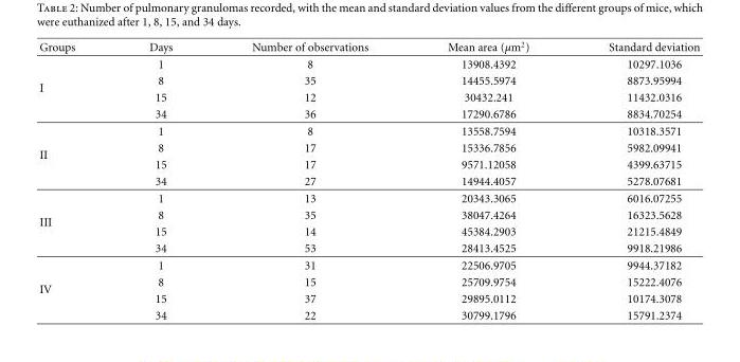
<table><thead><tr><td>Groups</td><td>Days</td><td>Number of observations</td><td>Mean area (μm<sup>2</sup>)</td><td>Standard deviation</td></tr></thead><tbody><tr><td rowspan="4">I</td><td>1</td><td>8</td><td>13908.4392</td><td>10297.1036</td></tr><tr><td>8</td><td>35</td><td>14455.5974</td><td>8873.95994</td></tr><tr><td>15</td><td>12</td><td>30432.241</td><td>11432.0316</td></tr><tr><td>34</td><td>36</td><td>17290.6786</td><td>8834.70254</td></tr><tr><td rowspan="4">II</td><td>1</td><td>8</td><td>13558.7594</td><td>10318.3571</td></tr><tr><td>8</td><td>17</td><td>15336.7856</td><td>5982.09941</td></tr><tr><td>15</td><td>17</td><td>9571.12058</td><td>4399.63715</td></tr><tr><td>34</td><td>27</td><td>14944.4057</td><td>5278.07681</td></tr><tr><td rowspan="4">III</td><td>1</td><td>13</td><td>20343.3065</td><td>6016.07255</td></tr><tr><td>8</td><td>35</td><td>38047.4264</td><td>16323.5628</td></tr><tr><td>15</td><td>14</td><td>45384.2903</td><td>21215.4849</td></tr><tr><td>34</td><td>53</td><td>28413.4525</td><td>9918.21986</td></tr><tr><td rowspan="4">IV</td><td>1</td><td>31</td><td>22506.9705</td><td>9944.37182</td></tr><tr><td>8</td><td>15</td><td>25709.9754</td><td>15222.4076</td></tr><tr><td>15</td><td>37</td><td>29895.0112</td><td>10174.3078</td></tr><tr><td>34</td><td>22</td><td>30799.1796</td><td>15791.2374</td></tr></tbody></table>